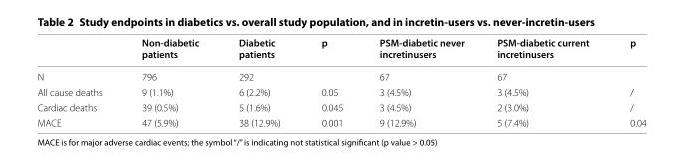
<table><thead><tr><td></td><td>Non-diabetic patients</td><td>Diabetic patients</td><td>p</td><td>PSM-diabetic never incretinusers</td><td>PSM-diabetic current incretinusers</td><td>p</td></tr></thead><tbody><tr><td>N</td><td>796</td><td>292</td><td></td><td>67</td><td>67</td><td></td></tr><tr><td>All cause deaths</td><td>9 (1.1%)</td><td>6 (2.2%)</td><td>0.05</td><td>3 (4.5%)</td><td>3 (4.5%)</td><td>/</td></tr><tr><td>Cardiac deaths</td><td>39 (0.5%)</td><td>5 (1.6%)</td><td>0.045</td><td>3 (4.5%)</td><td>2 (3.0%)</td><td>/</td></tr><tr><td>MACE</td><td>47 (5.9%)</td><td>38 (12.9%)</td><td>0.001</td><td>9 (12.9%)</td><td>5 (7.4%)</td><td>0.04</td></tr></tbody></table>